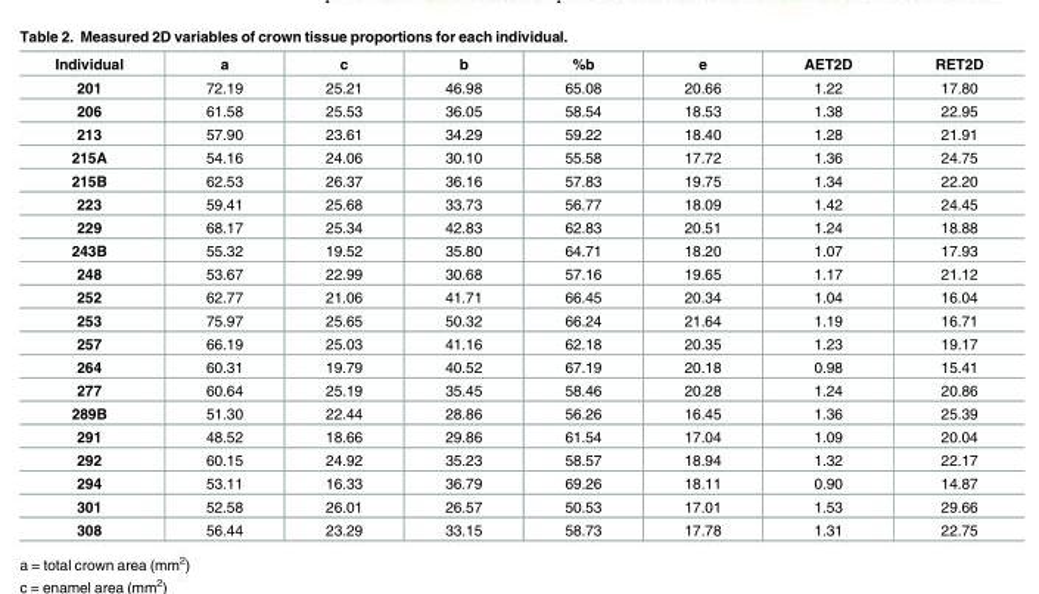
<table><thead><tr><td>Individual</td><td>a</td><td>c</td><td>b</td><td>%b</td><td>e</td><td>AET2D</td><td>RET2D</td></tr></thead><tbody><tr><td>201</td><td>72.19</td><td>25.21</td><td>46.98</td><td>65.08</td><td>20.66</td><td>1.22</td><td>17.80</td></tr><tr><td>206</td><td>61.58</td><td>25.53</td><td>36.05</td><td>58.54</td><td>18.53</td><td>1.38</td><td>22.95</td></tr><tr><td>213</td><td>57.90</td><td>23.61</td><td>34.29</td><td>59.22</td><td>18.40</td><td>1.28</td><td>21.91</td></tr><tr><td>215A</td><td>54.16</td><td>24.06</td><td>30.10</td><td>55.58</td><td>17.72</td><td>1.36</td><td>24.75</td></tr><tr><td>215B</td><td>62.53</td><td>26.37</td><td>36.16</td><td>57.83</td><td>19.75</td><td>1.34</td><td>22.20</td></tr><tr><td>223</td><td>59.41</td><td>25.68</td><td>33.73</td><td>56.77</td><td>18.09</td><td>1.42</td><td>24.45</td></tr><tr><td>229</td><td>68.17</td><td>25.34</td><td>42.83</td><td>62.83</td><td>20.51</td><td>1.24</td><td>18.88</td></tr><tr><td>243B</td><td>55.32</td><td>19.52</td><td>35.80</td><td>64.71</td><td>18.20</td><td>1.07</td><td>17.93</td></tr><tr><td>248</td><td>53.67</td><td>22.99</td><td>30.68</td><td>57.16</td><td>19.65</td><td>1.17</td><td>21.12</td></tr><tr><td>252</td><td>62.77</td><td>21.06</td><td>41.71</td><td>66.45</td><td>20.34</td><td>1.04</td><td>16.04</td></tr><tr><td>253</td><td>75.97</td><td>25.65</td><td>50.32</td><td>66.24</td><td>21.64</td><td>1.19</td><td>16.71</td></tr><tr><td>257</td><td>66.19</td><td>25.03</td><td>41.16</td><td>62.18</td><td>20.35</td><td>1.23</td><td>19.17</td></tr><tr><td>264</td><td>60.31</td><td>19.79</td><td>40.52</td><td>67.19</td><td>20.18</td><td>0.98</td><td>15.41</td></tr><tr><td>277</td><td>60.64</td><td>25.19</td><td>35.45</td><td>58.46</td><td>20.28</td><td>1.24</td><td>20.86</td></tr><tr><td>289B</td><td>51.30</td><td>22.44</td><td>28.86</td><td>56.26</td><td>16.45</td><td>1.36</td><td>25.39</td></tr><tr><td>291</td><td>48.52</td><td>18.66</td><td>29.86</td><td>61.54</td><td>17.04</td><td>1.09</td><td>20.04</td></tr><tr><td>292</td><td>60.15</td><td>24.92</td><td>35.23</td><td>58.57</td><td>18.94</td><td>1.32</td><td>22.17</td></tr><tr><td>294</td><td>53.11</td><td>16.33</td><td>36.79</td><td>69.26</td><td>18.11</td><td>0.90</td><td>14.87</td></tr><tr><td>301</td><td>52.58</td><td>26.01</td><td>26.57</td><td>50.53</td><td>17.01</td><td>1.53</td><td>29.66</td></tr><tr><td>308</td><td>56.44</td><td>23.29</td><td>33.15</td><td>58.73</td><td>17.78</td><td>1.31</td><td>22.75</td></tr></tbody></table>